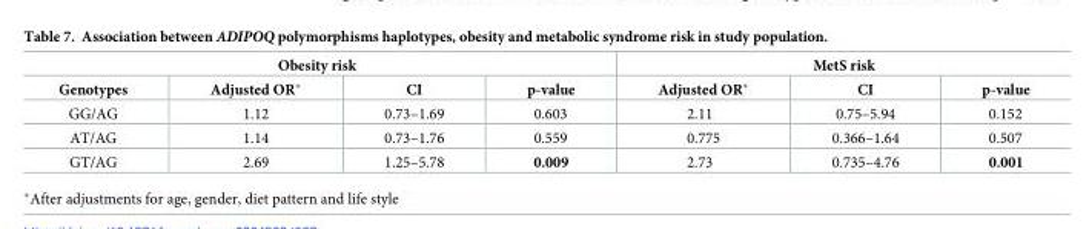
<table><thead><tr><td colspan="4">Obesity risk</td><td colspan="3">MetS risk</td></tr><tr><td>Genotypes</td><td>Adjusted OR*</td><td>CI</td><td>p-value</td><td>Adjusted OR*</td><td>CI</td><td>p-value</td></tr></thead><tbody><tr><td>GG/AG</td><td>1.12</td><td>0.73–1.69</td><td>0.603</td><td>2.11</td><td>0.75–5.94</td><td>0.152</td></tr><tr><td>AT/AG</td><td>1.14</td><td>0.73–1.76</td><td>0.559</td><td>0.775</td><td>0.366–1.64</td><td>0.507</td></tr><tr><td>GT/AG</td><td>2.69</td><td>1.25–5.78</td><td>0.009</td><td>2.73</td><td>0.735–4.76</td><td>0.001</td></tr></tbody></table>